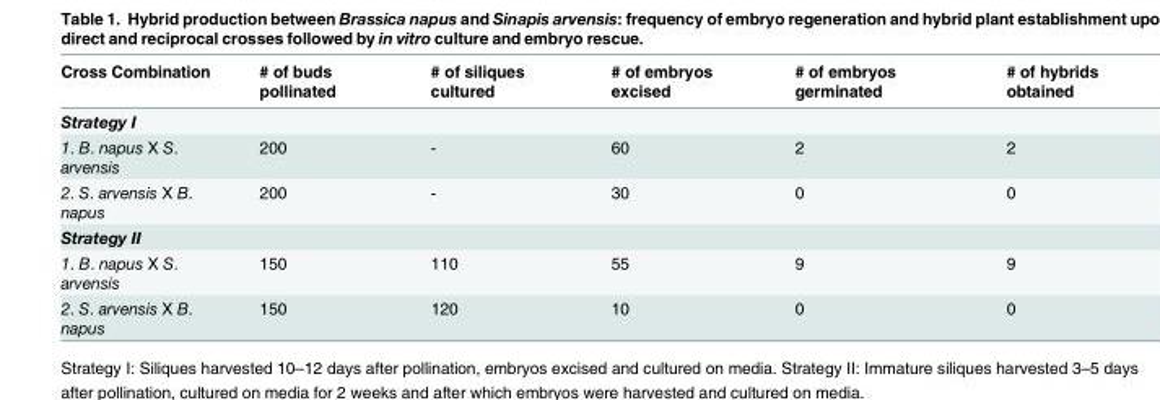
<table><thead><tr><td>Cross Combination</td><td># of buds pollinated</td><td># of siliques cultured</td><td># of embryos excised</td><td># of embryos germinated</td><td># of hybrids obtained</td></tr></thead><tbody><tr><td colspan="6">Strategy I</td></tr><tr><td>1. B. napus X S. arvensis</td><td>200</td><td>-</td><td>60</td><td>2</td><td>2</td></tr><tr><td>2. S. arvensis X B. napus</td><td>200</td><td>-</td><td>30</td><td>0</td><td>0</td></tr><tr><td colspan="6">Strategy II</td></tr><tr><td>1. B. napus X S. arvensis</td><td>150</td><td>110</td><td>55</td><td>9</td><td>9</td></tr><tr><td>2. S. arvensis X B. napus</td><td>150</td><td>120</td><td>10</td><td>0</td><td>0</td></tr></tbody></table>